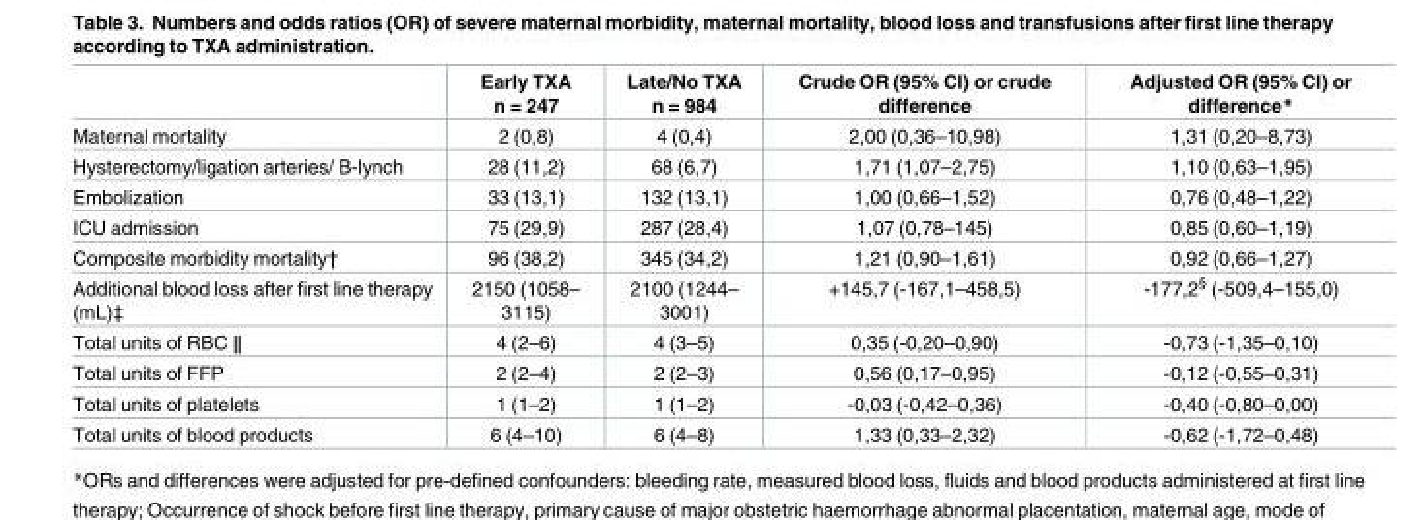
<table><thead><tr><td></td><td>Early TXA n = 247</td><td>Late/No TXA n = 984</td><td>Crude OR (95% CI) or crude difference</td><td>Adjusted OR (95% CI) or difference*</td></tr></thead><tbody><tr><td>Maternal mortality</td><td>2 (0,8)</td><td>4 (0,4)</td><td>2,00 (0,36–10,98)</td><td>1,31 (0,20–8,73)</td></tr><tr><td>Hysterectomy/ligation arteries/ B-lynch</td><td>28 (11,2)</td><td>68 (6,7)</td><td>1,71 (1,07–2,75)</td><td>1,10 (0,63–1,95)</td></tr><tr><td>Embolization</td><td>33 (13,1)</td><td>132 (13,1)</td><td>1,00 (0,66–1,52)</td><td>0,76 (0,48–1,22)</td></tr><tr><td>ICU admission</td><td>75 (29,9)</td><td>287 (28,4)</td><td>1,07 (0,78–145)</td><td>0,85 (0,60–1,19)</td></tr><tr><td>Composite morbidity mortality†</td><td>96 (38,2)</td><td>345 (34,2)</td><td>1,21 (0,90–1,61)</td><td>0,92 (0,66–1,27)</td></tr><tr><td>Additional blood loss after first line therapy (mL)‡</td><td>2150 (1058– 3115)</td><td>2100 (1244– 3001)</td><td>+145,7 (-167,1–458,5)</td><td>-177,2<sup>§</sup> (-509,4–155,0)</td></tr><tr><td>Total units of RBC ǁ</td><td>4 (2–6)</td><td>4 (3–5)</td><td>0,35 (-0,20–0,90)</td><td>-0,73 (-1,35–0,10)</td></tr><tr><td>Total units of FFP</td><td>2 (2–4)</td><td>2 (2–3)</td><td>0,56 (0,17–0,95)</td><td>-0,12 (-0,55–0,31)</td></tr><tr><td>Total units of platelets</td><td>1 (1–2)</td><td>1 (1–2)</td><td>-0,03 (-0,42–0,36)</td><td>-0,40 (-0,80–0,00)</td></tr><tr><td>Total units of blood products</td><td>6 (4–10)</td><td>6 (4–8)</td><td>1,33 (0,33–2,32)</td><td>-0,62 (-1,72–0,48)</td></tr></tbody></table>